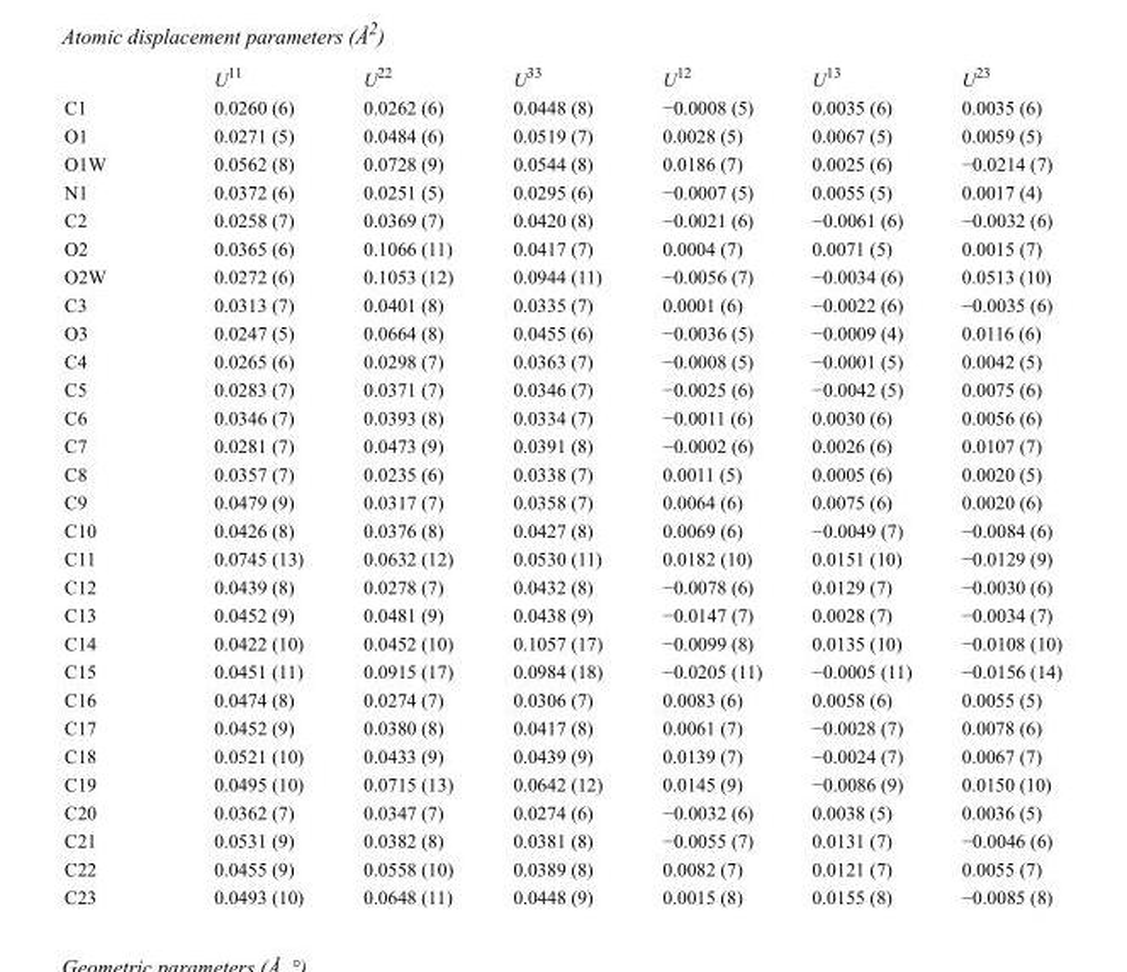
<table><thead><tr><td></td><td>U<sup>11</sup></td><td>U<sup>22</sup></td><td>U<sup>33</sup></td><td>U<sup>12</sup></td><td>U<sup>13</sup></td><td>U<sup>23</sup></td></tr></thead><tbody><tr><td>C1</td><td>0.0260 (6)</td><td>0.0262 (6)</td><td>0.0448 (8)</td><td>−0.0008 (5)</td><td>0.0035 (6)</td><td>0.0035 (6)</td></tr><tr><td>O1</td><td>0.0271 (5)</td><td>0.0484 (6)</td><td>0.0519 (7)</td><td>0.0028 (5)</td><td>0.0067 (5)</td><td>0.0059 (5)</td></tr><tr><td>O1W</td><td>0.0562 (8)</td><td>0.0728 (9)</td><td>0.0544 (8)</td><td>0.0186 (7)</td><td>0.0025 (6)</td><td>−0.0214 (7)</td></tr><tr><td>N1</td><td>0.0372 (6)</td><td>0.0251 (5)</td><td>0.0295 (6)</td><td>−0.0007 (5)</td><td>0.0055 (5)</td><td>0.0017 (4)</td></tr><tr><td>C2</td><td>0.0258 (7)</td><td>0.0369 (7)</td><td>0.0420 (8)</td><td>−0.0021 (6)</td><td>−0.0061 (6)</td><td>−0.0032 (6)</td></tr><tr><td>O2</td><td>0.0365 (6)</td><td>0.1066 (11)</td><td>0.0417 (7)</td><td>0.0004 (7)</td><td>0.0071 (5)</td><td>0.0015 (7)</td></tr><tr><td>O2W</td><td>0.0272 (6)</td><td>0.1053 (12)</td><td>0.0944 (11)</td><td>−0.0056 (7)</td><td>−0.0034 (6)</td><td>0.0513 (10)</td></tr><tr><td>C3</td><td>0.0313 (7)</td><td>0.0401 (8)</td><td>0.0335 (7)</td><td>0.0001 (6)</td><td>−0.0022 (6)</td><td>−0.0035 (6)</td></tr><tr><td>O3</td><td>0.0247 (5)</td><td>0.0664 (8)</td><td>0.0455 (6)</td><td>−0.0036 (5)</td><td>−0.0009 (4)</td><td>0.0116 (6)</td></tr><tr><td>C4</td><td>0.0265 (6)</td><td>0.0298 (7)</td><td>0.0363 (7)</td><td>−0.0008 (5)</td><td>−0.0001 (5)</td><td>0.0042 (5)</td></tr><tr><td>C5</td><td>0.0283 (7)</td><td>0.0371 (7)</td><td>0.0346 (7)</td><td>−0.0025 (6)</td><td>−0.0042 (5)</td><td>0.0075 (6)</td></tr><tr><td>C6</td><td>0.0346 (7)</td><td>0.0393 (8)</td><td>0.0334 (7)</td><td>−0.0011 (6)</td><td>0.0030 (6)</td><td>0.0056 (6)</td></tr><tr><td>C7</td><td>0.0281 (7)</td><td>0.0473 (9)</td><td>0.0391 (8)</td><td>−0.0002 (6)</td><td>0.0026 (6)</td><td>0.0107 (7)</td></tr><tr><td>C8</td><td>0.0357 (7)</td><td>0.0235 (6)</td><td>0.0338 (7)</td><td>0.0011 (5)</td><td>0.0005 (6)</td><td>0.0020 (5)</td></tr><tr><td>C9</td><td>0.0479 (9)</td><td>0.0317 (7)</td><td>0.0358 (7)</td><td>0.0064 (6)</td><td>0.0075 (6)</td><td>0.0020 (6)</td></tr><tr><td>C10</td><td>0.0426 (8)</td><td>0.0376 (8)</td><td>0.0427 (8)</td><td>0.0069 (6)</td><td>−0.0049 (7)</td><td>−0.0084 (6)</td></tr><tr><td>C11</td><td>0.0745 (13)</td><td>0.0632 (12)</td><td>0.0530 (11)</td><td>0.0182 (10)</td><td>0.0151 (10)</td><td>−0.0129 (9)</td></tr><tr><td>C12</td><td>0.0439 (8)</td><td>0.0278 (7)</td><td>0.0432 (8)</td><td>−0.0078 (6)</td><td>0.0129 (7)</td><td>−0.0030 (6)</td></tr><tr><td>C13</td><td>0.0452 (9)</td><td>0.0481 (9)</td><td>0.0438 (9)</td><td>−0.0147 (7)</td><td>0.0028 (7)</td><td>−0.0034 (7)</td></tr><tr><td>C14</td><td>0.0422 (10)</td><td>0.0452 (10)</td><td>0.1057 (17)</td><td>−0.0099 (8)</td><td>0.0135 (10)</td><td>−0.0108 (10)</td></tr><tr><td>C15</td><td>0.0451 (11)</td><td>0.0915 (17)</td><td>0.0984 (18)</td><td>−0.0205 (11)</td><td>−0.0005 (11)</td><td>−0.0156 (14)</td></tr><tr><td>C16</td><td>0.0474 (8)</td><td>0.0274 (7)</td><td>0.0306 (7)</td><td>0.0083 (6)</td><td>0.0058 (6)</td><td>0.0055 (5)</td></tr><tr><td>C17</td><td>0.0452 (9)</td><td>0.0380 (8)</td><td>0.0417 (8)</td><td>0.0061 (7)</td><td>−0.0028 (7)</td><td>0.0078 (6)</td></tr><tr><td>C18</td><td>0.0521 (10)</td><td>0.0433 (9)</td><td>0.0439 (9)</td><td>0.0139 (7)</td><td>−0.0024 (7)</td><td>0.0067 (7)</td></tr><tr><td>C19</td><td>0.0495 (10)</td><td>0.0715 (13)</td><td>0.0642 (12)</td><td>0.0145 (9)</td><td>−0.0086 (9)</td><td>0.0150 (10)</td></tr><tr><td>C20</td><td>0.0362 (7)</td><td>0.0347 (7)</td><td>0.0274 (6)</td><td>−0.0032 (6)</td><td>0.0038 (5)</td><td>0.0036 (5)</td></tr><tr><td>C21</td><td>0.0531 (9)</td><td>0.0382 (8)</td><td>0.0381 (8)</td><td>−0.0055 (7)</td><td>0.0131 (7)</td><td>−0.0046 (6)</td></tr><tr><td>C22</td><td>0.0455 (9)</td><td>0.0558 (10)</td><td>0.0389 (8)</td><td>0.0082 (7)</td><td>0.0121 (7)</td><td>0.0055 (7)</td></tr><tr><td>C23</td><td>0.0493 (10)</td><td>0.0648 (11)</td><td>0.0448 (9)</td><td>0.0015 (8)</td><td>0.0155 (8)</td><td>−0.0085 (8)</td></tr></tbody></table>